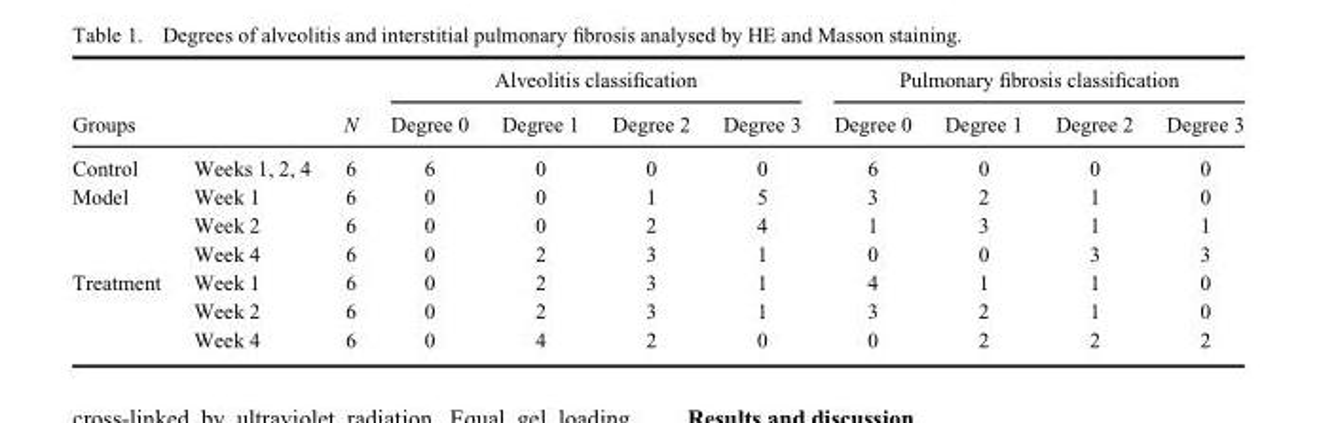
<table><thead><tr><td></td><td></td><td rowspan="2">N</td><td colspan="4">Alveolitis classification</td><td colspan="4">Pulmonary fibrosis classification</td></tr><tr><td colspan="2">Groups</td><td>Degree 0</td><td>Degree 1</td><td>Degree 2</td><td>Degree 3</td><td>Degree 0</td><td>Degree 1</td><td>Degree 2</td><td>Degree 3</td></tr></thead><tbody><tr><td>Control</td><td>Weeks 1, 2, 4</td><td>6</td><td>6</td><td>0</td><td>0</td><td>0</td><td>6</td><td>0</td><td>0</td><td>0</td></tr><tr><td rowspan="3">Model</td><td>Week 1</td><td>6</td><td>0</td><td>0</td><td>1</td><td>5</td><td>3</td><td>2</td><td>1</td><td>0</td></tr><tr><td>Week 2</td><td>6</td><td>0</td><td>0</td><td>2</td><td>4</td><td>1</td><td>3</td><td>1</td><td>1</td></tr><tr><td>Week 4</td><td>6</td><td>0</td><td>2</td><td>3</td><td>1</td><td>0</td><td>0</td><td>3</td><td>3</td></tr><tr><td rowspan="3">Treatment</td><td>Week 1</td><td>6</td><td>0</td><td>2</td><td>3</td><td>1</td><td>4</td><td>1</td><td>1</td><td>0</td></tr><tr><td>Week 2</td><td>6</td><td>0</td><td>2</td><td>3</td><td>1</td><td>3</td><td>2</td><td>1</td><td>0</td></tr><tr><td>Week 4</td><td>6</td><td>0</td><td>4</td><td>2</td><td>0</td><td>0</td><td>2</td><td>2</td><td>2</td></tr></tbody></table>